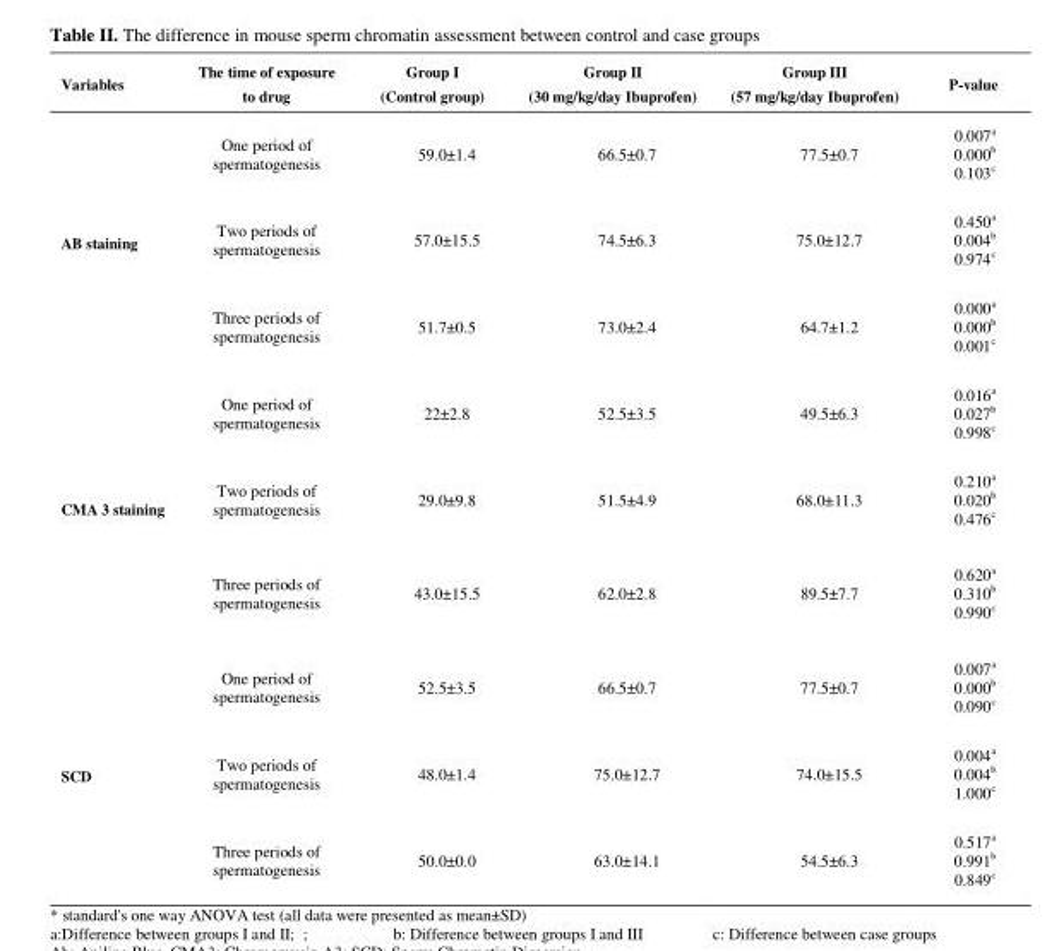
<table><thead><tr><td>Variables</td><td>The time of exposure to drug</td><td>Group I (Control group)</td><td>Group II (30 mg/kg/day Ibuprofen)</td><td>Group III (57 mg/kg/day Ibuprofen)</td><td>P-value</td></tr></thead><tbody><tr><td rowspan="3">AB staining</td><td>One period of spermatogenesis</td><td>59.0±1.4</td><td>66.5±0.7</td><td>77.5±0.7</td><td>0.007<sup>a</sup> 0.000<sup>b</sup> 0.103<sup>c</sup></td></tr><tr><td>Two periods of spermatogenesis</td><td>57.0±15.5</td><td>74.5±6.3</td><td>75.0±12.7</td><td>0.450<sup>a</sup> 0.004<sup>b</sup> 0.974<sup>c</sup></td></tr><tr><td>Three periods of spermatogenesis</td><td>51.7±0.5</td><td>73.0±2.4</td><td>64.7±1.2</td><td>0.000<sup>a</sup> 0.000<sup>b</sup> 0.001<sup>c</sup></td></tr><tr><td rowspan="3">CMA 3 staining</td><td>One period of spermatogenesis</td><td>22±2.8</td><td>52.5±3.5</td><td>49.5±6.3</td><td>0.016<sup>a</sup> 0.027<sup>b</sup> 0.998<sup>c</sup></td></tr><tr><td>Two periods of spermatogenesis</td><td>29.0±9.8</td><td>51.5±4.9</td><td>68.0±11.3</td><td>0.210<sup>a</sup> 0.020<sup>b</sup> 0.476<sup>c</sup></td></tr><tr><td>Three periods of spermatogenesis</td><td>43.0±15.5</td><td>62.0±2.8</td><td>89.5±7.7</td><td>0.620<sup>a</sup> 0.310<sup>b</sup> 0.990<sup>c</sup></td></tr><tr><td rowspan="3">SCD</td><td>One period of spermatogenesis</td><td>52.5±3.5</td><td>66.5±0.7</td><td>77.5±0.7</td><td>0.007<sup>a</sup> 0.000<sup>b</sup> 0.090<sup>c</sup></td></tr><tr><td>Two periods of spermatogenesis</td><td>48.0±1.4</td><td>75.0±12.7</td><td>74.0±15.5</td><td>0.004<sup>a</sup> 0.004<sup>b</sup> 1.000<sup>c</sup></td></tr><tr><td>Three periods of spermatogenesis</td><td>50.0±0.0</td><td>63.0±14.1</td><td>54.5±6.3</td><td>0.517<sup>a</sup> 0.991<sup>b</sup> 0.849<sup>c</sup></td></tr></tbody></table>